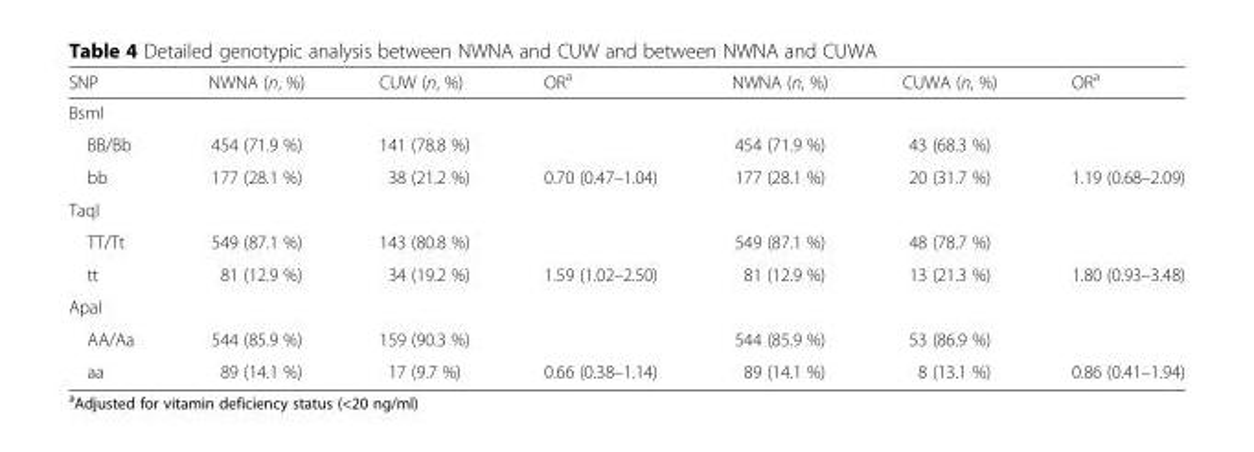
<table><thead><tr><td>SNP</td><td>NWNA (n, %)</td><td>CUW (n, %)</td><td>OR<sup>a</sup></td><td>NWNA (n, %)</td><td>CUWA (n, %)</td><td>OR<sup>a</sup></td></tr></thead><tbody><tr><td colspan="7">BsmI</td></tr><tr><td>BB/Bb</td><td>454 (71.9 %)</td><td>141 (78.8 %)</td><td></td><td>454 (71.9 %)</td><td>43 (68.3 %)</td><td></td></tr><tr><td>bb</td><td>177 (28.1 %)</td><td>38 (21.2 %)</td><td>0.70 (0.47–1.04)</td><td>177 (28.1 %)</td><td>20 (31.7 %)</td><td>1.19 (0.68–2.09)</td></tr><tr><td colspan="7">TaqI</td></tr><tr><td>TT/Tt</td><td>549 (87.1 %)</td><td>143 (80.8 %)</td><td></td><td>549 (87.1 %)</td><td>48 (78.7 %)</td><td></td></tr><tr><td>tt</td><td>81 (12.9 %)</td><td>34 (19.2 %)</td><td>1.59 (1.02–2.50)</td><td>81 (12.9 %)</td><td>13 (21.3 %)</td><td>1.80 (0.93–3.48)</td></tr><tr><td colspan="7">ApaI</td></tr><tr><td>AA/Aa</td><td>544 (85.9 %)</td><td>159 (90.3 %)</td><td></td><td>544 (85.9 %)</td><td>53 (86.9 %)</td><td></td></tr><tr><td>aa</td><td>89 (14.1 %)</td><td>17 (9.7 %)</td><td>0.66 (0.38–1.14)</td><td>89 (14.1 %)</td><td>8 (13.1 %)</td><td>0.86 (0.41–1.94)</td></tr></tbody></table>